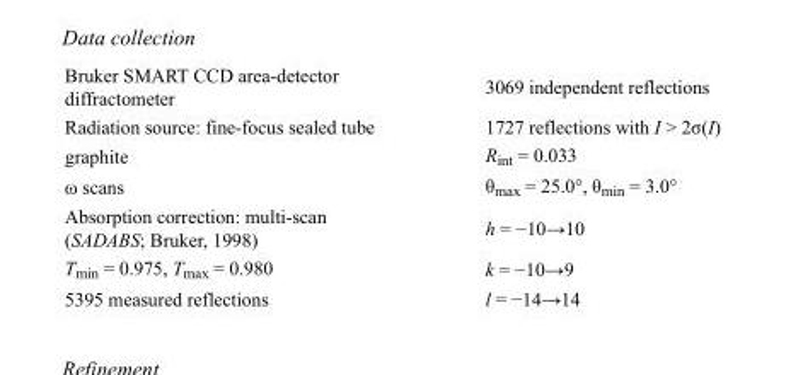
<table><tbody><tr><td>Bruker SMART CCD area-detector diffractometer</td><td>3069 independent reflections</td></tr><tr><td>Radiation source: fine-focus sealed tube</td><td>1727 reflections with I &gt; 2σ(I)</td></tr><tr><td>graphite</td><td>R<sub>int</sub> = 0.033</td></tr><tr><td>ω scans</td><td>θ<sub>max</sub> = 25.0°, θ<sub>min</sub> = 3.0°</td></tr><tr><td>Absorption correction: multi-scan (SADABS; Bruker, 1998)</td><td>h = −10→10</td></tr><tr><td>T<sub>min</sub> = 0.975, T<sub>max</sub> = 0.980</td><td>k = −10→9</td></tr><tr><td>5395 measured reflections</td><td>l = −14→14</td></tr></tbody></table>